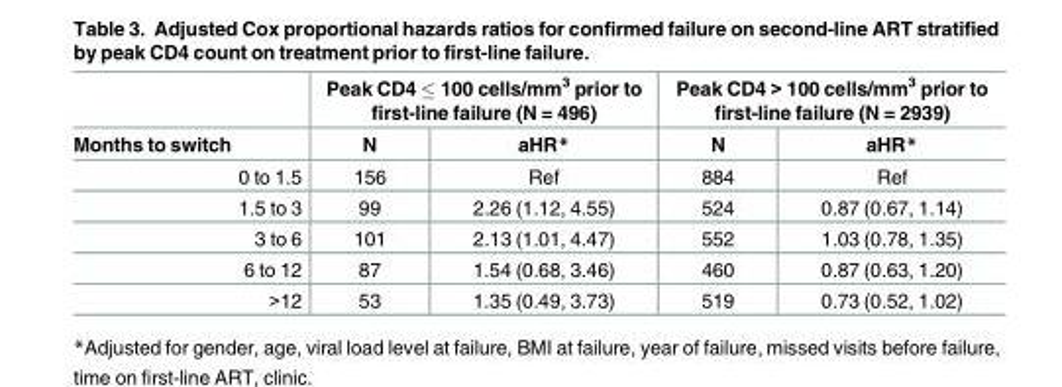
<table><thead><tr><td rowspan="2">Months to switch</td><td colspan="2">Peak CD4 ≤ 100 cells/mm<sup>3</sup> prior to first-line failure (N = 496)</td><td colspan="2">Peak CD4 &gt; 100 cells/mm<sup>3</sup> prior to first-line failure (N = 2939)</td></tr><tr><td>N</td><td>aHR*</td><td>N</td><td>aHR*</td></tr></thead><tbody><tr><td>0 to 1.5</td><td>156</td><td>Ref</td><td>884</td><td>Ref</td></tr><tr><td>1.5 to 3</td><td>99</td><td>2.26 (1.12, 4.55)</td><td>524</td><td>0.87 (0.67, 1.14)</td></tr><tr><td>3 to 6</td><td>101</td><td>2.13 (1.01, 4.47)</td><td>552</td><td>1.03 (0.78, 1.35)</td></tr><tr><td>6 to 12</td><td>87</td><td>1.54 (0.68, 3.46)</td><td>460</td><td>0.87 (0.63, 1.20)</td></tr><tr><td>&gt;12</td><td>53</td><td>1.35 (0.49, 3.73)</td><td>519</td><td>0.73 (0.52, 1.02)</td></tr></tbody></table>